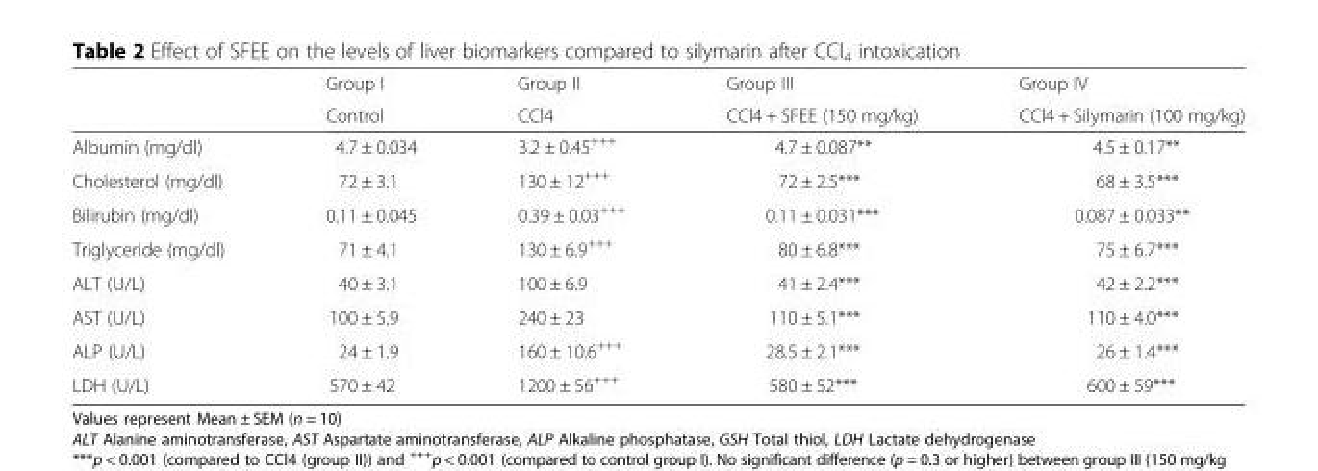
<table><thead><tr><td rowspan="2"></td><td rowspan="2">Group I Control</td><td rowspan="2">Group II CCl4</td><td rowspan="2">Group III CCl4 + SFEE (150 mg/kg)</td><td rowspan="2">Group IV CCl4 + Silymarin (100 mg/kg)</td></tr><tr></tr></thead><tbody><tr><td>Albumin (mg/dl)</td><td>4.7 ± 0.034</td><td>3.2 ± 0.45<sup>+++</sup></td><td>4.7 ± 0.087**</td><td>4.5 ± 0.17**</td></tr><tr><td>Cholesterol (mg/dl)</td><td>72 ± 3.1</td><td>130 ± 12<sup>+++</sup></td><td>72 ± 2.5***</td><td>68 ± 3.5***</td></tr><tr><td>Bilirubin (mg/dl)</td><td>0.11 ± 0.045</td><td>0.39 ± 0.03<sup>+++</sup></td><td>0.11 ± 0.031***</td><td>0.087 ± 0.033**</td></tr><tr><td>Triglyceride (mg/dl)</td><td>71 ± 4.1</td><td>130 ± 6.9<sup>+++</sup></td><td>80 ± 6.8***</td><td>75 ± 6.7***</td></tr><tr><td>ALT (U/L)</td><td>40 ± 3.1</td><td>100 ± 6.9</td><td>41 ± 2.4***</td><td>42 ± 2.2***</td></tr><tr><td>AST (U/L)</td><td>100 ± 5.9</td><td>240 ± 23</td><td>110 ± 5.1***</td><td>110 ± 4.0***</td></tr><tr><td>ALP (U/L)</td><td>24 ± 1.9</td><td>160 ± 10.6<sup>+++</sup></td><td>28.5 ± 2.1***</td><td>26 ± 1.4***</td></tr><tr><td>LDH (U/L)</td><td>570 ± 42</td><td>1200 ± 56<sup>+++</sup></td><td>580 ± 52***</td><td>600 ± 59***</td></tr></tbody></table>